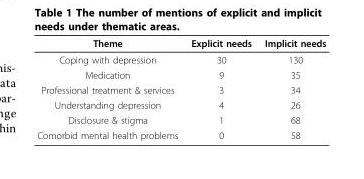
<table><thead><tr><td>Theme</td><td>Explicit needs</td><td>Implicit needs</td></tr></thead><tbody><tr><td>Coping with depression</td><td>30</td><td>130</td></tr><tr><td>Medication</td><td>9</td><td>35</td></tr><tr><td>Professional treatment &amp; services</td><td>3</td><td>34</td></tr><tr><td>Understanding depression</td><td>4</td><td>26</td></tr><tr><td>Disclosure &amp; stigma</td><td>1</td><td>68</td></tr><tr><td>Comorbid mental health problems</td><td>0</td><td>58</td></tr></tbody></table>